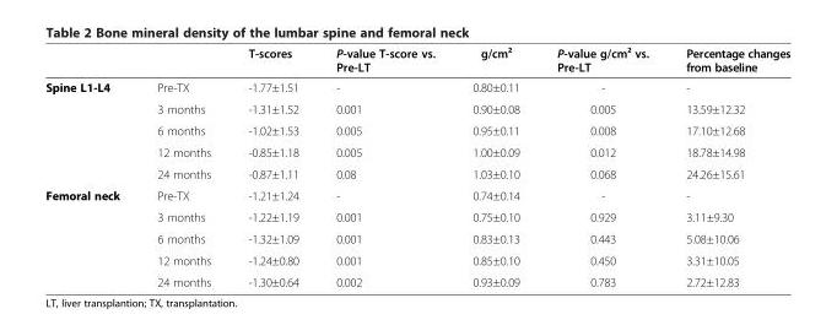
<table><thead><tr><td></td><td></td><td>T-scores</td><td>P-value T-score vs. Pre-LT</td><td>g/cm²</td><td>P-value g/cm² vs. Pre-LT</td><td>Percentage changes from baseline</td></tr></thead><tbody><tr><td rowspan="5">Spine L1-L4</td><td>Pre-TX</td><td>-1.77±1.51</td><td>-</td><td>0.80±0.11</td><td>-</td><td>-</td></tr><tr><td>3 months</td><td>-1.31±1.52</td><td>0.001</td><td>0.90±0.08</td><td>0.005</td><td>13.59±12.32</td></tr><tr><td>6 months</td><td>-1.02±1.53</td><td>0.005</td><td>0.95±0.11</td><td>0.008</td><td>17.10±12.68</td></tr><tr><td>12 months</td><td>-0.85±1.18</td><td>0.005</td><td>1.00±0.09</td><td>0.012</td><td>18.78±14.98</td></tr><tr><td>24 months</td><td>-0.87±1.11</td><td>0.08</td><td>1.03±0.10</td><td>0.068</td><td>24.26±15.61</td></tr><tr><td rowspan="5">Femoral neck</td><td>Pre-TX</td><td>-1.21±1.24</td><td>-</td><td>0.74±0.14</td><td>-</td><td>-</td></tr><tr><td>3 months</td><td>-1.22±1.19</td><td>0.001</td><td>0.75±0.10</td><td>0.929</td><td>3.11±9.30</td></tr><tr><td>6 months</td><td>-1.32±1.09</td><td>0.001</td><td>0.83±0.13</td><td>0.443</td><td>5.08±10.06</td></tr><tr><td>12 months</td><td>-1.24±0.80</td><td>0.001</td><td>0.85±0.10</td><td>0.450</td><td>3.31±10.05</td></tr><tr><td>24 months</td><td>-1.30±0.64</td><td>0.002</td><td>0.93±0.09</td><td>0.783</td><td>2.72±12.83</td></tr></tbody></table>